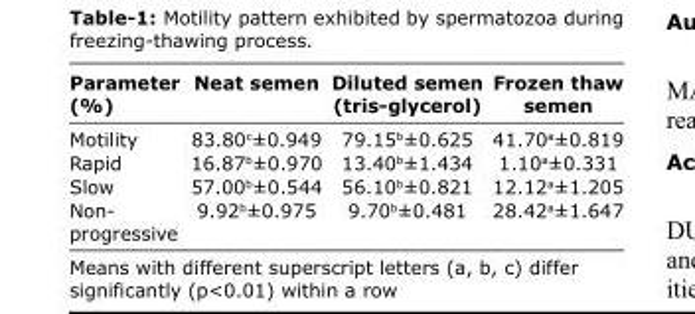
<table><thead><tr><td>Parameter (%)</td><td>Neat semen</td><td>Diluted semen (tris-glycerol)</td><td>Frozen thaw semen</td></tr></thead><tbody><tr><td>Motility</td><td>83.80<sup>c</sup>±0.949</td><td>79.15<sup>b</sup>±0.625</td><td>41.70<sup>a</sup>±0.819</td></tr><tr><td>Rapid</td><td>16.87<sup>b</sup>±0.970</td><td>13.40<sup>b</sup>±1.434</td><td>1.10<sup>a</sup>±0.331</td></tr><tr><td>Slow</td><td>57.00<sup>b</sup>±0.544</td><td>56.10<sup>b</sup>±0.821</td><td>12.12<sup>a</sup>±1.205</td></tr><tr><td>Non- progressive</td><td>9.92<sup>b</sup>±0.975</td><td>9.70<sup>b</sup>±0.481</td><td>28.42<sup>a</sup>±1.647</td></tr></tbody></table>